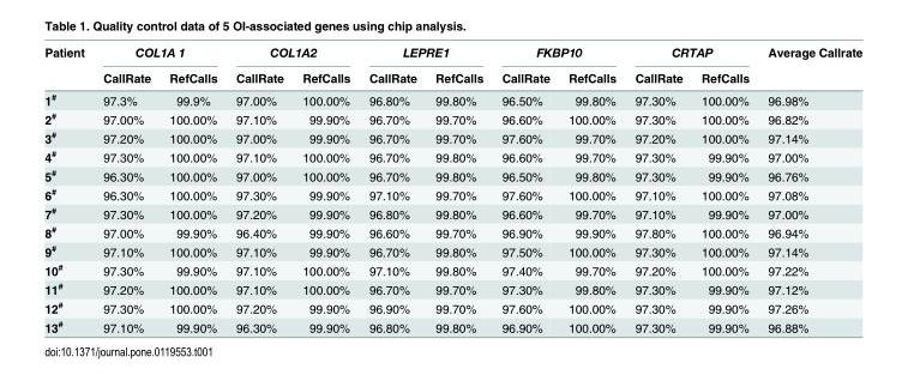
<table><thead><tr><td rowspan="2">Patient</td><td colspan="2">COL1A 1</td><td colspan="2">COL1A2</td><td colspan="2">LEPRE1</td><td colspan="2">FKBP10</td><td colspan="2">CRTAP</td><td rowspan="2">Average Callrate</td></tr><tr><td>CallRate</td><td>RefCalls</td><td>CallRate</td><td>RefCalls</td><td>CallRate</td><td>RefCalls</td><td>CallRate</td><td>RefCalls</td><td>CallRate</td><td>RefCalls</td></tr></thead><tbody><tr><td>1<sup>#</sup></td><td>97.3%</td><td>99.9%</td><td>97.00%</td><td>100.00%</td><td>96.80%</td><td>99.80%</td><td>96.50%</td><td>99.80%</td><td>97.30%</td><td>100.00%</td><td>96.98%</td></tr><tr><td>2<sup>#</sup></td><td>97.00%</td><td>100.00%</td><td>97.10%</td><td>99.90%</td><td>96.70%</td><td>99.70%</td><td>96.60%</td><td>100.00%</td><td>97.30%</td><td>100.00%</td><td>96.82%</td></tr><tr><td>3<sup>#</sup></td><td>97.20%</td><td>100.00%</td><td>97.00%</td><td>99.90%</td><td>96.70%</td><td>99.70%</td><td>97.60%</td><td>99.70%</td><td>97.20%</td><td>100.00%</td><td>97.14%</td></tr><tr><td>4<sup>#</sup></td><td>97.30%</td><td>100.00%</td><td>97.10%</td><td>100.00%</td><td>96.70%</td><td>99.80%</td><td>96.60%</td><td>99.70%</td><td>97.30%</td><td>99.90%</td><td>97.00%</td></tr><tr><td>5<sup>#</sup></td><td>96.30%</td><td>100.00%</td><td>97.00%</td><td>100.00%</td><td>96.70%</td><td>99.80%</td><td>96.50%</td><td>99.80%</td><td>97.30%</td><td>99.90%</td><td>96.76%</td></tr><tr><td>6<sup>#</sup></td><td>96.30%</td><td>100.00%</td><td>97.30%</td><td>99.90%</td><td>97.10%</td><td>99.70%</td><td>97.60%</td><td>100.00%</td><td>97.10%</td><td>100.00%</td><td>97.08%</td></tr><tr><td>7<sup>#</sup></td><td>97.30%</td><td>100.00%</td><td>97.20%</td><td>99.90%</td><td>96.80%</td><td>99.80%</td><td>96.60%</td><td>99.70%</td><td>97.10%</td><td>99.90%</td><td>97.00%</td></tr><tr><td>8<sup>#</sup></td><td>97.00%</td><td>99.90%</td><td>96.40%</td><td>99.90%</td><td>96.60%</td><td>99.70%</td><td>96.90%</td><td>99.90%</td><td>97.80%</td><td>100.00%</td><td>96.94%</td></tr><tr><td>9<sup>#</sup></td><td>97.10%</td><td>100.00%</td><td>97.10%</td><td>99.90%</td><td>96.70%</td><td>99.80%</td><td>97.50%</td><td>100.00%</td><td>97.30%</td><td>100.00%</td><td>97.14%</td></tr><tr><td>10<sup>#</sup></td><td>97.30%</td><td>99.90%</td><td>97.10%</td><td>100.00%</td><td>97.10%</td><td>99.80%</td><td>97.40%</td><td>99.70%</td><td>97.20%</td><td>100.00%</td><td>97.22%</td></tr><tr><td>11<sup>#</sup></td><td>97.20%</td><td>100.00%</td><td>97.10%</td><td>100.00%</td><td>96.70%</td><td>99.70%</td><td>97.30%</td><td>99.80%</td><td>97.30%</td><td>99.90%</td><td>97.12%</td></tr><tr><td>12<sup>#</sup></td><td>97.30%</td><td>100.00%</td><td>97.20%</td><td>99.90%</td><td>96.90%</td><td>99.70%</td><td>97.60%</td><td>100.00%</td><td>97.30%</td><td>99.90%</td><td>97.26%</td></tr><tr><td>13<sup>#</sup></td><td>97.10%</td><td>99.90%</td><td>96.30%</td><td>99.90%</td><td>96.80%</td><td>99.80%</td><td>96.90%</td><td>100.00%</td><td>97.30%</td><td>99.90%</td><td>96.88%</td></tr></tbody></table>